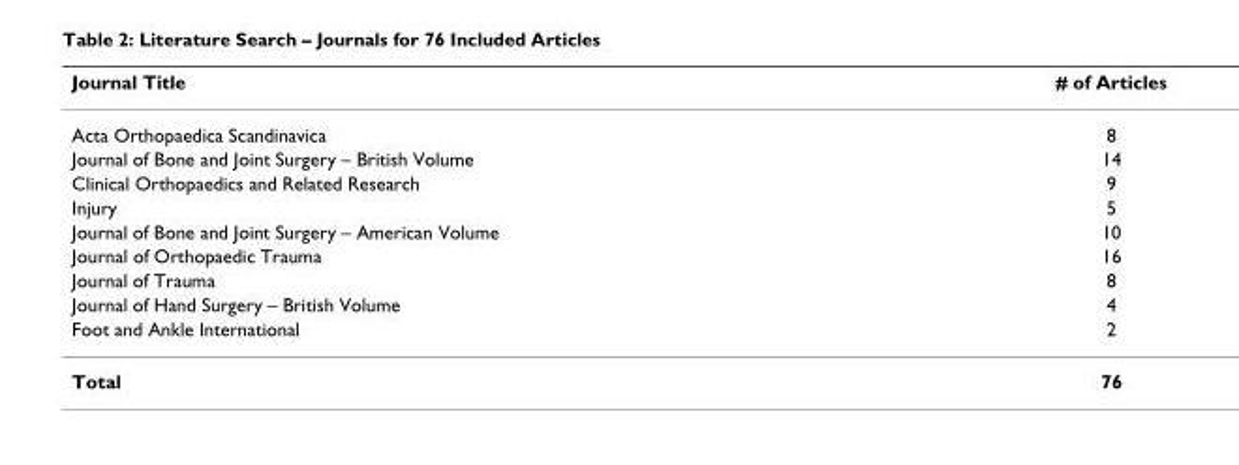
<table><thead><tr><td>Journal Title</td><td># of Articles</td></tr></thead><tbody><tr><td>Acta Orthopaedica Scandinavica</td><td>8</td></tr><tr><td>Journal of Bone and Joint Surgery – British Volume</td><td>14</td></tr><tr><td>Clinical Orthopaedics and Related Research</td><td>9</td></tr><tr><td>Injury</td><td>5</td></tr><tr><td>Journal of Bone and Joint Surgery – American Volume</td><td>10</td></tr><tr><td>Journal of Orthopaedic Trauma</td><td>16</td></tr><tr><td>Journal of Trauma</td><td>8</td></tr><tr><td>Journal of Hand Surgery – British Volume</td><td>4</td></tr><tr><td>Foot and Ankle International</td><td>2</td></tr><tr><td>Total</td><td>76</td></tr></tbody></table>